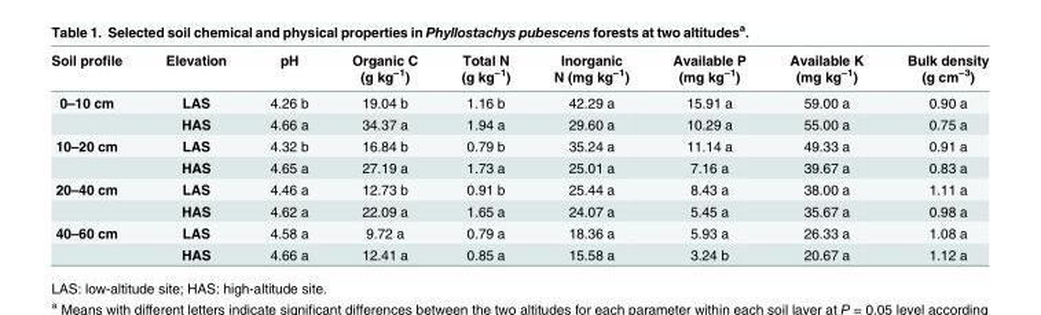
<table><thead><tr><td>Soil profile</td><td>Elevation</td><td>pH</td><td>Organic C (g kg<sup>−1</sup>)</td><td>Total N (g kg<sup>−1</sup>)</td><td>Inorganic N (mg kg<sup>−1</sup>)</td><td>Available P (mg kg<sup>−1</sup>)</td><td>Available K (mg kg<sup>−1</sup>)</td><td>Bulk density (g cm<sup>−3</sup>)</td></tr></thead><tbody><tr><td rowspan="2">0–10 cm</td><td>LAS</td><td>4.26 b</td><td>19.04 b</td><td>1.16 b</td><td>42.29 a</td><td>15.91 a</td><td>59.00 a</td><td>0.90 a</td></tr><tr><td>HAS</td><td>4.66 a</td><td>34.37 a</td><td>1.94 a</td><td>29.60 a</td><td>10.29 a</td><td>55.00 a</td><td>0.75 a</td></tr><tr><td rowspan="2">10–20 cm</td><td>LAS</td><td>4.32 b</td><td>16.84 b</td><td>0.79 b</td><td>35.24 a</td><td>11.14 a</td><td>49.33 a</td><td>0.91 a</td></tr><tr><td>HAS</td><td>4.65 a</td><td>27.19 a</td><td>1.73 a</td><td>25.01 a</td><td>7.16 a</td><td>39.67 a</td><td>0.83 a</td></tr><tr><td rowspan="2">20–40 cm</td><td>LAS</td><td>4.46 a</td><td>12.73 b</td><td>0.91 b</td><td>25.44 a</td><td>8.43 a</td><td>38.00 a</td><td>1.11 a</td></tr><tr><td>HAS</td><td>4.62 a</td><td>22.09 a</td><td>1.65 a</td><td>24.07 a</td><td>5.45 a</td><td>35.67 a</td><td>0.98 a</td></tr><tr><td rowspan="2">40–60 cm</td><td>LAS</td><td>4.58 a</td><td>9.72 a</td><td>0.79 a</td><td>18.36 a</td><td>5.93 a</td><td>26.33 a</td><td>1.08 a</td></tr><tr><td>HAS</td><td>4.66 a</td><td>12.41 a</td><td>0.85 a</td><td>15.58 a</td><td>3.24 b</td><td>20.67 a</td><td>1.12 a</td></tr></tbody></table>